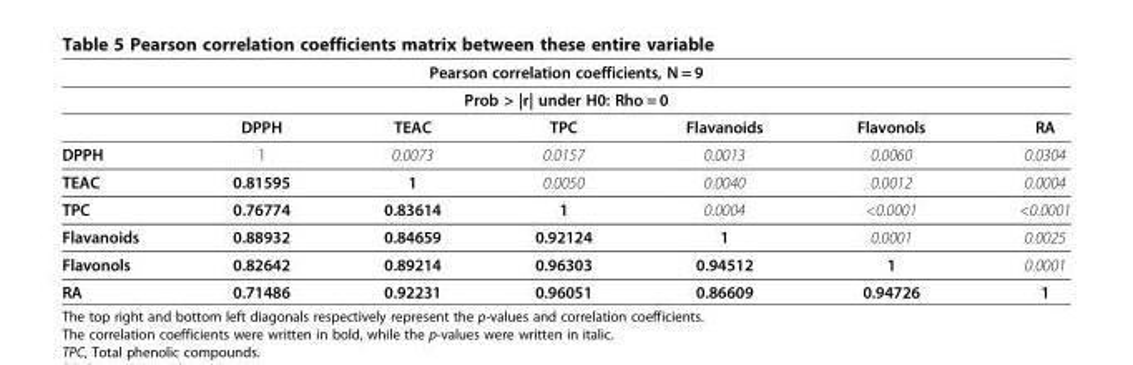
<table><thead><tr><td rowspan="2" colspan="7">Pearson correlation coefficients, N = 9 Prob &gt; |r| under H0: Rho = 0</td></tr><tr></tr><tr><td></td><td>DPPH</td><td>TEAC</td><td>TPC</td><td>Flavanoids</td><td>Flavonols</td><td>RA</td></tr></thead><tbody><tr><td>DPPH</td><td>1</td><td>0.0073</td><td>0.0157</td><td>0.0013</td><td>0.0060</td><td>0.0304</td></tr><tr><td>TEAC</td><td>0.81595</td><td>1</td><td>0.0050</td><td>0.0040</td><td>0.0012</td><td>0.0004</td></tr><tr><td>TPC</td><td>0.76774</td><td>0.83614</td><td>1</td><td>0.0004</td><td>&lt;0.0001</td><td>&lt;0.0001</td></tr><tr><td>Flavanoids</td><td>0.88932</td><td>0.84659</td><td>0.92124</td><td>1</td><td>0.0001</td><td>0.0025</td></tr><tr><td>Flavonols</td><td>0.82642</td><td>0.89214</td><td>0.96303</td><td>0.94512</td><td>1</td><td>0.0001</td></tr><tr><td>RA</td><td>0.71486</td><td>0.92231</td><td>0.96051</td><td>0.86609</td><td>0.94726</td><td>1</td></tr></tbody></table>